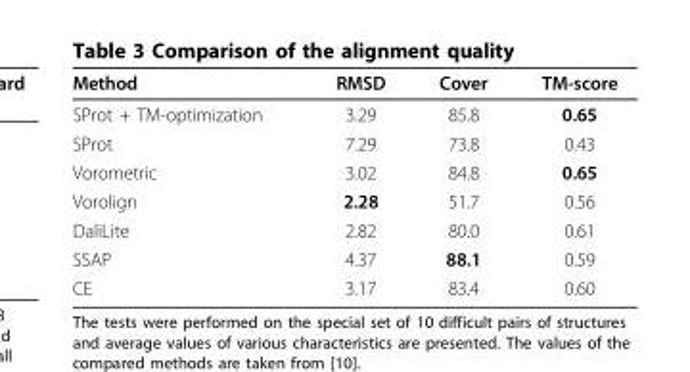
<table><thead><tr><td>Method</td><td>RMSD</td><td>Cover</td><td>TM-score</td></tr></thead><tbody><tr><td>SProt + TM-optimization</td><td>3.29</td><td>85.8</td><td>0.65</td></tr><tr><td>SProt</td><td>7.29</td><td>73.8</td><td>0.43</td></tr><tr><td>Vorometric</td><td>3.02</td><td>84.8</td><td>0.65</td></tr><tr><td>Vorolign</td><td>2.28</td><td>51.7</td><td>0.56</td></tr><tr><td>DaliLite</td><td>2.82</td><td>80.0</td><td>0.61</td></tr><tr><td>SSAP</td><td>4.37</td><td>88.1</td><td>0.59</td></tr><tr><td>CE</td><td>3.17</td><td>83.4</td><td>0.60</td></tr></tbody></table>